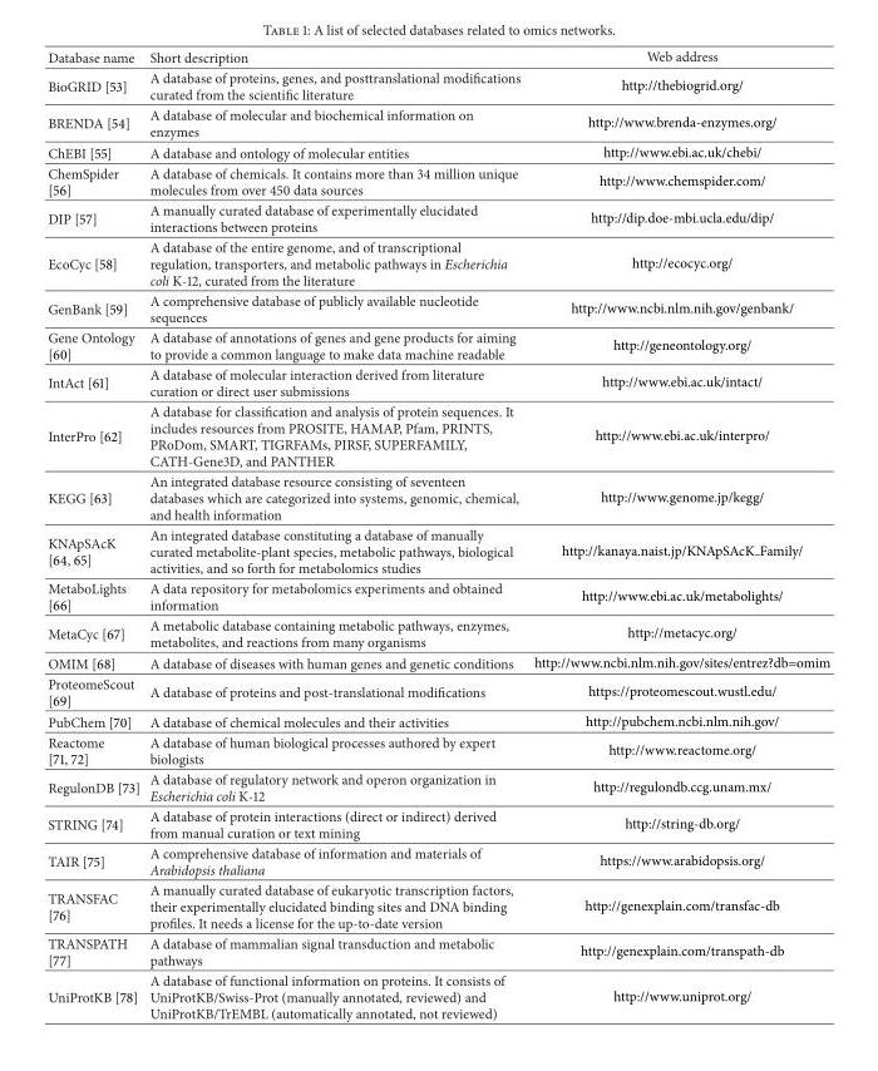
<table><thead><tr><td>Database name</td><td>Short description</td><td>Web address</td></tr></thead><tbody><tr><td>BioGRID [53]</td><td>A database of proteins, genes, and posttranslational modifications curated from the scientific literature</td><td>http://thebiogrid.org/</td></tr><tr><td>BRENDA [54]</td><td>A database of molecular and biochemical information on enzymes</td><td>http://www.brenda-enzymes.org/</td></tr><tr><td>ChEBI [55]</td><td>A database and ontology of molecular entities</td><td>http://www.ebi.ac.uk/chebi/</td></tr><tr><td>ChemSpider [56]</td><td>A database of chemicals. It contains more than 34 million unique molecules from over 450 data sources</td><td>http://www.chemspider.com/</td></tr><tr><td>DIP [57]</td><td>A manually curated database of experimentally elucidated interactions between proteins</td><td>http://dip.doe-mbi.ucla.edu/dip/</td></tr><tr><td>EcoCyc [58]</td><td>A database of the entire genome, and of transcriptional regulation, transporters, and metabolic pathways in Escherichia coli K-12, curated from the literature</td><td>http://ecocyc.org/</td></tr><tr><td>GenBank [59]</td><td>A comprehensive database of publicly available nucleotide sequences</td><td>http://www.ncbi.nlm.nih.gov/genbank/</td></tr><tr><td>Gene Ontology [60]</td><td>A database of annotations of genes and gene products for aiming to provide a common language to make data machine readable</td><td>http://geneontology.org/</td></tr><tr><td>IntAct [61]</td><td>A database of molecular interaction derived from literature curation or direct user submissions</td><td>http://www.ebi.ac.uk/intact/</td></tr><tr><td>InterPro [62]</td><td>A database for classification and analysis of protein sequences. It includes resources from PROSITE, HAMAP, Pfam, PRINTS, PRoDom, SMART, TIGRFAMs, PIRSF, SUPERFAMILY, CATH-Gene3D, and PANTHER</td><td>http://www.ebi.ac.uk/interpro/</td></tr><tr><td>KEGG [63]</td><td>An integrated database resource consisting of seventeen databases which are categorized into systems, genomic, chemical, and health information</td><td>http://www.genome.jp/kegg/</td></tr><tr><td>KNApSAcK [64, 65]</td><td>An integrated database constituting a database of manually curated metabolite-plant species, metabolic pathways, biological activities, and so forth for metabolomics studies</td><td>http://kanaya.naist.jp/KNApSAcK Family/</td></tr><tr><td>MetaboLights [66]</td><td>A data repository for metabolomics experiments and obtained information</td><td>http://www.ebi.ac.uk/metabolights/</td></tr><tr><td>MetaCyc [67]</td><td>A metabolic database containing metabolic pathways, enzymes, metabolites, and reactions from many organisms</td><td>http://metacyc.org/</td></tr><tr><td>OMIM [68]</td><td>A database of diseases with human genes and genetic conditions</td><td>http://www.ncbi.nlm.nih.gov/sites/entrez?db=omim</td></tr><tr><td>ProteomeScout [69]</td><td>A database of proteins and post-translational modifications</td><td>https://proteomescout.wustl.edu/</td></tr><tr><td>PubChem [70]</td><td>A database of chemical molecules and their activities</td><td>http://pubchem.ncbi.nlm.nih.gov/</td></tr><tr><td>Reactome [71, 72]</td><td>A database of human biological processes authored by expert biologists</td><td>http://www.reactome.org/</td></tr><tr><td>RegulonDB [73]</td><td>A database of regulatory network and operon organization in Escherichia coli K-12</td><td>http://regulondb.ccg.unam.mx/</td></tr><tr><td>STRING [74]</td><td>A database of protein interactions (direct or indirect) derived from manual curation or text mining</td><td>http://string-db.org/</td></tr><tr><td>TAIR [75]</td><td>A comprehensive database of information and materials of Arabidopsis thaliana</td><td>https://www.arabidopsis.org/</td></tr><tr><td>TRANSFAC [76]</td><td>A manually curated database of eukaryotic transcription factors, their experimentally elucidated binding sites and DNA binding profiles. It needs a license for the up-to-date version</td><td>http://genexplain.com/transfac-db</td></tr><tr><td>TRANSPATH [77]</td><td>A database of mammalian signal transduction and metabolic pathways</td><td>http://genexplain.com/transpath-db</td></tr><tr><td>UniProtKB [78]</td><td>A database of functional information on proteins. It consists of UniProtKB/Swiss-Prot (manually annotated, reviewed) and UniProtKB/TrEMBL (automatically annotated, not reviewed)</td><td>http://www.uniprot.org/</td></tr></tbody></table>